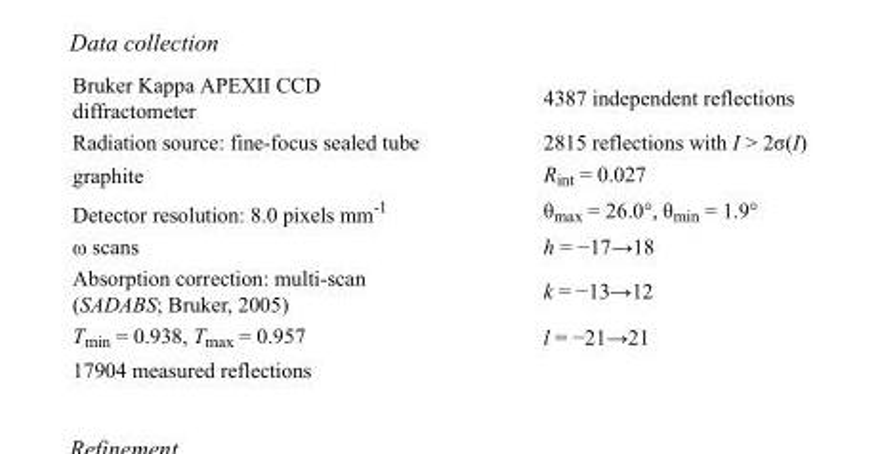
<table><tbody><tr><td>Bruker Kappa APEXII CCD diffractometer</td><td>4387 independent reflections</td></tr><tr><td>Radiation source: fine-focus sealed tube</td><td>2815 reflections with I &gt; 2σ(I)</td></tr><tr><td>graphite</td><td>R<sub>int</sub> = 0.027</td></tr><tr><td>Detector resolution: 8.0 pixels mm<sup>-1</sup></td><td>θ<sub>max</sub> = 26.0°, θ<sub>min</sub> = 1.9°</td></tr><tr><td>ω scans</td><td>h = −17→18</td></tr><tr><td>Absorption correction: multi-scan (SADABS; Bruker, 2005)</td><td>k = −13→12</td></tr><tr><td>T<sub>min</sub> = 0.938, T<sub>max</sub> = 0.957</td><td>l = −21→21</td></tr><tr><td>17904 measured reflections</td><td></td></tr></tbody></table>